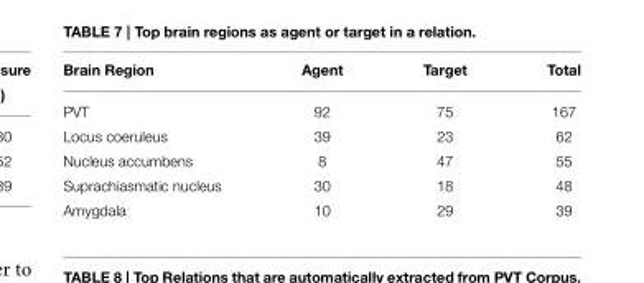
<table><thead><tr><td>Brain Region</td><td>Agent</td><td>Target</td><td>Total</td></tr></thead><tbody><tr><td>PVT</td><td>92</td><td>75</td><td>167</td></tr><tr><td>Locus coeruleus</td><td>39</td><td>23</td><td>62</td></tr><tr><td>Nucleus accumbens</td><td>8</td><td>47</td><td>55</td></tr><tr><td>Suprachiasmatic nucleus</td><td>30</td><td>18</td><td>48</td></tr><tr><td>Amygdala</td><td>10</td><td>29</td><td>39</td></tr></tbody></table>